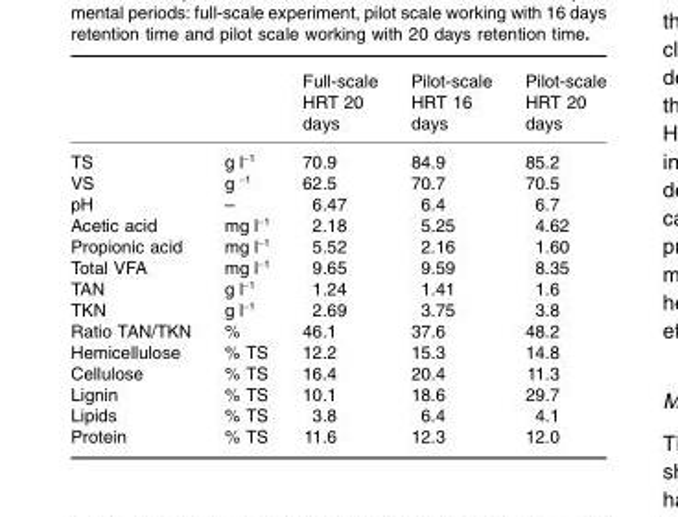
<table><thead><tr><td></td><td></td><td>Full-scale HRT 20 days</td><td>Pilot-scale HRT 16 days</td><td>Pilot-scale HRT 20 days</td></tr></thead><tbody><tr><td>TS</td><td>g l<sup>−1</sup></td><td>70.9</td><td>84.9</td><td>85.2</td></tr><tr><td>VS</td><td>g <sup>−1</sup></td><td>62.5</td><td>70.7</td><td>70.5</td></tr><tr><td>pH</td><td>–</td><td>6.47</td><td>6.4</td><td>6.7</td></tr><tr><td>Acetic acid</td><td>mg l<sup>−1</sup></td><td>2.18</td><td>5.25</td><td>4.62</td></tr><tr><td>Propionic acid</td><td>mg l<sup>−1</sup></td><td>5.52</td><td>2.16</td><td>1.60</td></tr><tr><td>Total VFA</td><td>mg l<sup>−1</sup></td><td>9.65</td><td>9.59</td><td>8.35</td></tr><tr><td>TAN</td><td>g l<sup>−1</sup></td><td>1.24</td><td>1.41</td><td>1.6</td></tr><tr><td>TKN</td><td>g l<sup>−1</sup></td><td>2.69</td><td>3.75</td><td>3.8</td></tr><tr><td>Ratio TAN/TKN</td><td>%</td><td>46.1</td><td>37.6</td><td>48.2</td></tr><tr><td>Hemicellulose</td><td>% TS</td><td>12.2</td><td>15.3</td><td>14.8</td></tr><tr><td>Cellulose</td><td>% TS</td><td>16.4</td><td>20.4</td><td>11.3</td></tr><tr><td>Lignin</td><td>% TS</td><td>10.1</td><td>18.6</td><td>29.7</td></tr><tr><td>Lipids</td><td>% TS</td><td>3.8</td><td>6.4</td><td>4.1</td></tr><tr><td>Protein</td><td>% TS</td><td>11.6</td><td>12.3</td><td>12.0</td></tr></tbody></table>